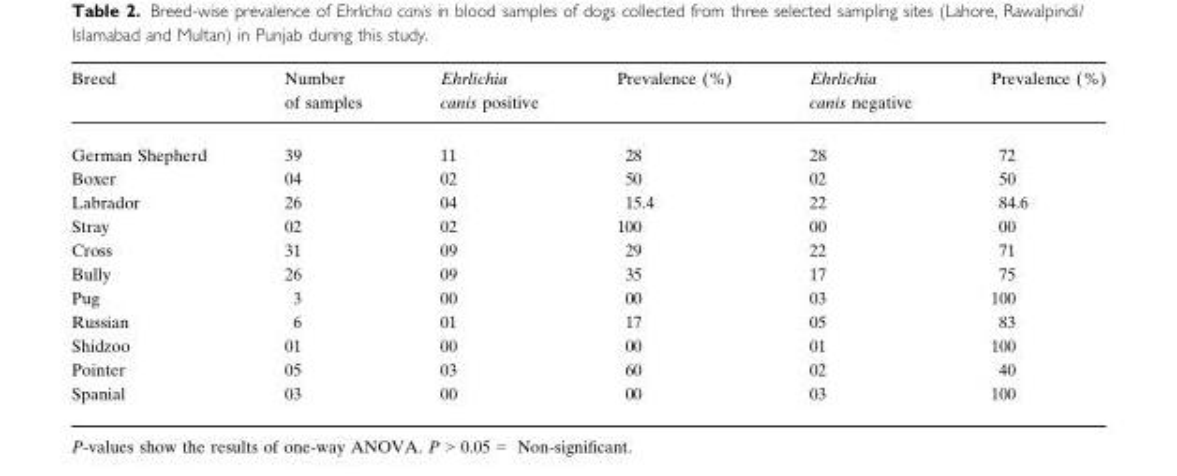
<table><thead><tr><td>Breed</td><td>Number of samples</td><td>Ehrlichia canis positive</td><td>Prevalence (%)</td><td>Ehrlichia canis negative</td><td>Prevalence (%)</td></tr></thead><tbody><tr><td>German Shepherd</td><td>39</td><td>11</td><td>28</td><td>28</td><td>72</td></tr><tr><td>Boxer</td><td>04</td><td>02</td><td>50</td><td>02</td><td>50</td></tr><tr><td>Labrador</td><td>26</td><td>04</td><td>15.4</td><td>22</td><td>84.6</td></tr><tr><td>Stray</td><td>02</td><td>02</td><td>100</td><td>00</td><td>00</td></tr><tr><td>Cross</td><td>31</td><td>09</td><td>29</td><td>22</td><td>71</td></tr><tr><td>Bully</td><td>26</td><td>09</td><td>35</td><td>17</td><td>75</td></tr><tr><td>Pug</td><td>3</td><td>00</td><td>00</td><td>03</td><td>100</td></tr><tr><td>Russian</td><td>6</td><td>01</td><td>17</td><td>05</td><td>83</td></tr><tr><td>Shidzoo</td><td>01</td><td>00</td><td>00</td><td>01</td><td>100</td></tr><tr><td>Pointer</td><td>05</td><td>03</td><td>60</td><td>02</td><td>40</td></tr><tr><td>Spanial</td><td>03</td><td>00</td><td>00</td><td>03</td><td>100</td></tr></tbody></table>